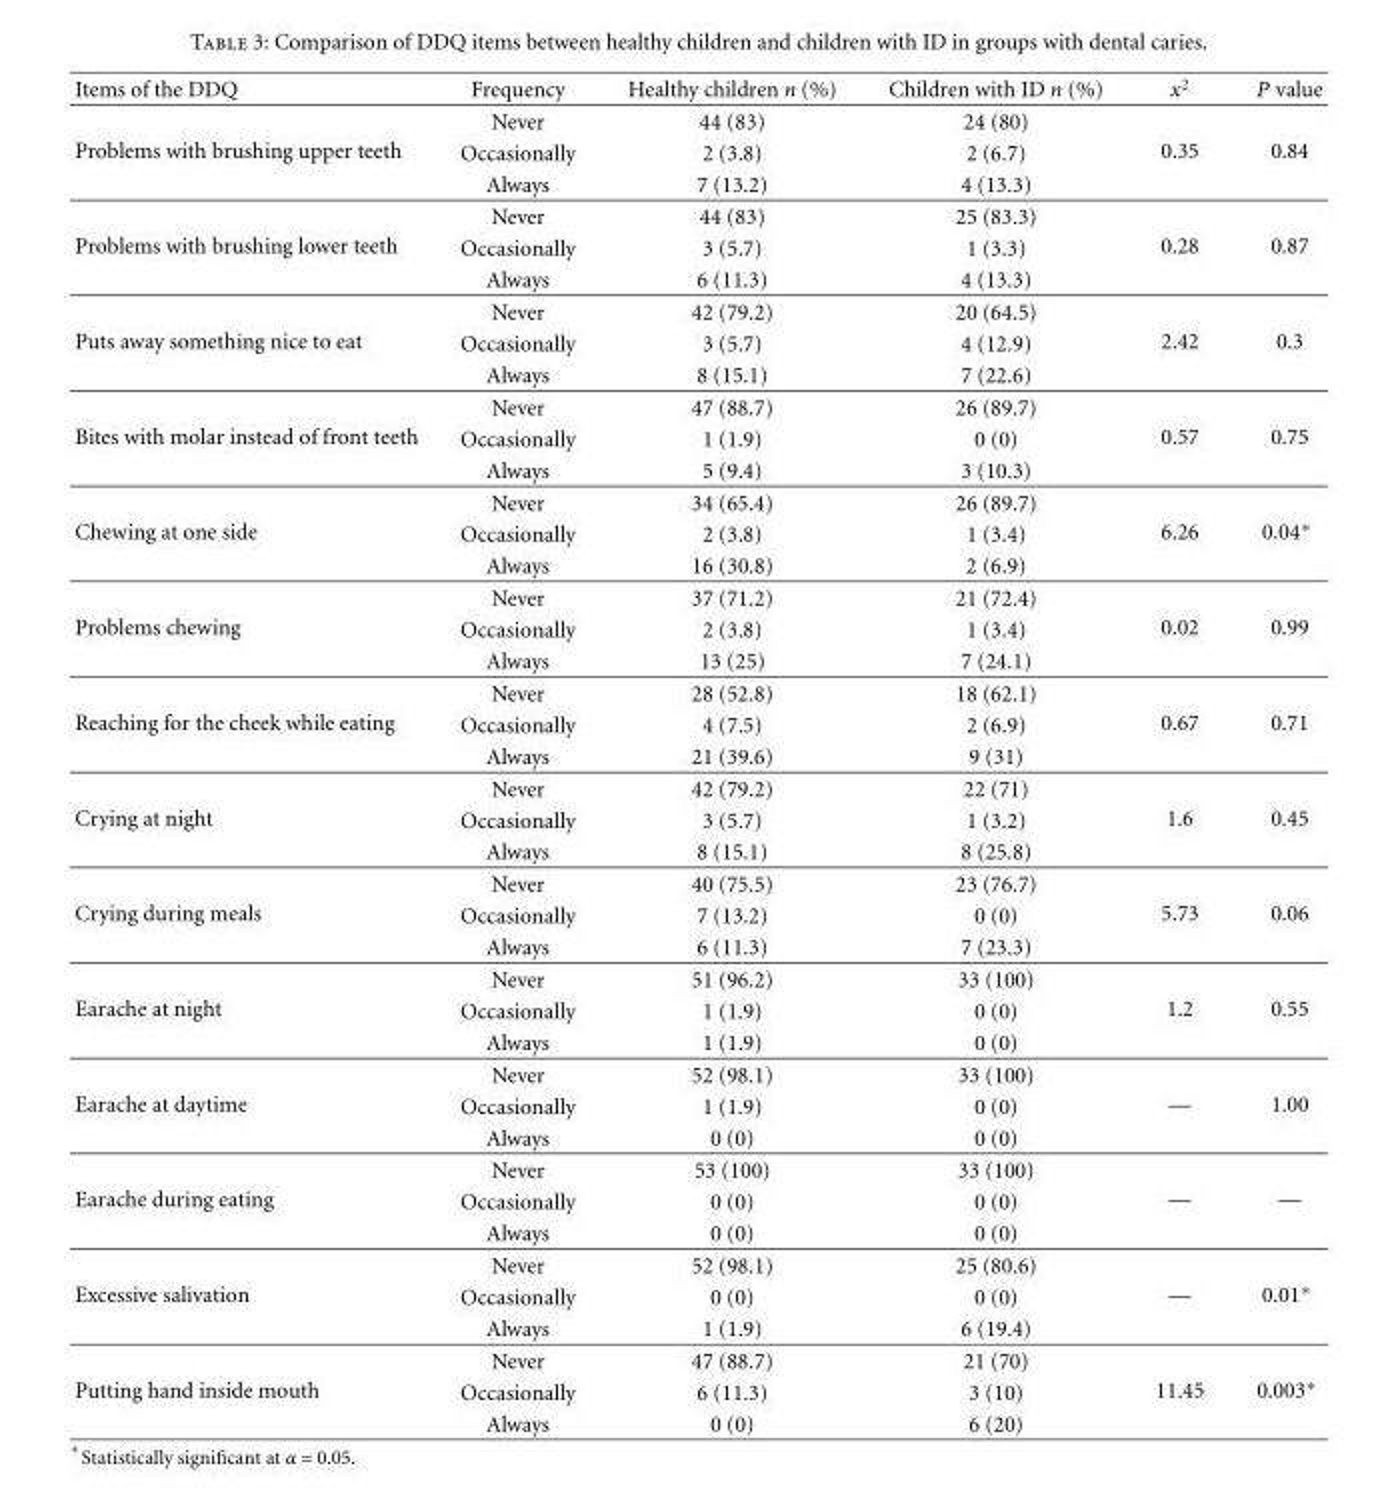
<table><thead><tr><td>Items of the DDQ</td><td>Frequency</td><td>Healthy children n (%)</td><td>Children with ID n (%)</td><td>x<sup>2</sup></td><td>P value</td></tr></thead><tbody><tr><td rowspan="3">Problems with brushing upper teeth</td><td>Never</td><td>44 (83)</td><td>24 (80)</td><td rowspan="3">0.35</td><td rowspan="3">0.84</td></tr><tr><td>Occasionally</td><td>2 (3.8)</td><td>2 (6.7)</td></tr><tr><td>Always</td><td>7 (13.2)</td><td>4 (13.3)</td></tr><tr><td rowspan="3">Problems with brushing lower teeth</td><td>Never</td><td>44 (83)</td><td>25 (83.3)</td><td rowspan="3">0.28</td><td rowspan="3">0.87</td></tr><tr><td>Occasionally</td><td>3 (5.7)</td><td>1 (3.3)</td></tr><tr><td>Always</td><td>6 (11.3)</td><td>4 (13.3)</td></tr><tr><td rowspan="3">Puts away something nice to eat</td><td>Never</td><td>42 (79.2)</td><td>20 (64.5)</td><td rowspan="3">2.42</td><td rowspan="3">0.3</td></tr><tr><td>Occasionally</td><td>3 (5.7)</td><td>4 (12.9)</td></tr><tr><td>Always</td><td>8 (15.1)</td><td>7 (22.6)</td></tr><tr><td rowspan="3">Bites with molar instead of front teeth</td><td>Never</td><td>47 (88.7)</td><td>26 (89.7)</td><td rowspan="3">0.57</td><td rowspan="3">0.75</td></tr><tr><td>Occasionally</td><td>1 (1.9)</td><td>0 (0)</td></tr><tr><td>Always</td><td>5 (9.4)</td><td>3 (10.3)</td></tr><tr><td rowspan="3">Chewing at one side</td><td>Never</td><td>34 (65.4)</td><td>26 (89.7)</td><td rowspan="3">6.26</td><td rowspan="3">0.04∗</td></tr><tr><td>Occasionally</td><td>2 (3.8)</td><td>1 (3.4)</td></tr><tr><td>Always</td><td>16 (30.8)</td><td>2 (6.9)</td></tr><tr><td rowspan="3">Problems chewing</td><td>Never</td><td>37 (71.2)</td><td>21 (72.4)</td><td rowspan="3">0.02</td><td rowspan="3">0.99</td></tr><tr><td>Occasionally</td><td>2 (3.8)</td><td>1 (3.4)</td></tr><tr><td>Always</td><td>13 (25)</td><td>7 (24.1)</td></tr><tr><td rowspan="3">Reaching for the cheek while eating</td><td>Never</td><td>28 (52.8)</td><td>18 (62.1)</td><td rowspan="3">0.67</td><td rowspan="3">0.71</td></tr><tr><td>Occasionally</td><td>4 (7.5)</td><td>2 (6.9)</td></tr><tr><td>Always</td><td>21 (39.6)</td><td>9 (31)</td></tr><tr><td rowspan="3">Crying at night</td><td>Never</td><td>42 (79.2)</td><td>22 (71)</td><td rowspan="3">1.6</td><td rowspan="3">0.45</td></tr><tr><td>Occasionally</td><td>3 (5.7)</td><td>1 (3.2)</td></tr><tr><td>Always</td><td>8 (15.1)</td><td>8 (25.8)</td></tr><tr><td rowspan="3">Crying during meals</td><td>Never</td><td>40 (75.5)</td><td>23 (76.7)</td><td rowspan="3">5.73</td><td rowspan="3">0.06</td></tr><tr><td>Occasionally</td><td>7 (13.2)</td><td>0 (0)</td></tr><tr><td>Always</td><td>6 (11.3)</td><td>7 (23.3)</td></tr><tr><td rowspan="3">Earache at night</td><td>Never</td><td>51 (96.2)</td><td>33 (100)</td><td rowspan="3">1.2</td><td rowspan="3">0.55</td></tr><tr><td>Occasionally</td><td>1 (1.9)</td><td>0 (0)</td></tr><tr><td>Always</td><td>1 (1.9)</td><td>0 (0)</td></tr><tr><td rowspan="3">Earache at daytime</td><td>Never</td><td>52 (98.1)</td><td>33 (100)</td><td rowspan="3">—</td><td rowspan="3">1.00</td></tr><tr><td>Occasionally</td><td>1 (1.9)</td><td>0 (0)</td></tr><tr><td>Always</td><td>0 (0)</td><td>0 (0)</td></tr><tr><td rowspan="3">Earache during eating</td><td>Never</td><td>53 (100)</td><td>33 (100)</td><td rowspan="3">—</td><td rowspan="3">—</td></tr><tr><td>Occasionally</td><td>0 (0)</td><td>0 (0)</td></tr><tr><td>Always</td><td>0 (0)</td><td>0 (0)</td></tr><tr><td rowspan="3">Excessive salivation</td><td>Never</td><td>52 (98.1)</td><td>25 (80.6)</td><td rowspan="3">—</td><td rowspan="3">0.01∗</td></tr><tr><td>Occasionally</td><td>0 (0)</td><td>0 (0)</td></tr><tr><td>Always</td><td>1 (1.9)</td><td>6 (19.4)</td></tr><tr><td rowspan="3">Putting hand inside mouth</td><td>Never</td><td>47 (88.7)</td><td>21 (70)</td><td rowspan="3">11.45</td><td rowspan="3">0.003∗</td></tr><tr><td>Occasionally</td><td>6 (11.3)</td><td>3 (10)</td></tr><tr><td>Always</td><td>0 (0)</td><td>6 (20)</td></tr></tbody></table>